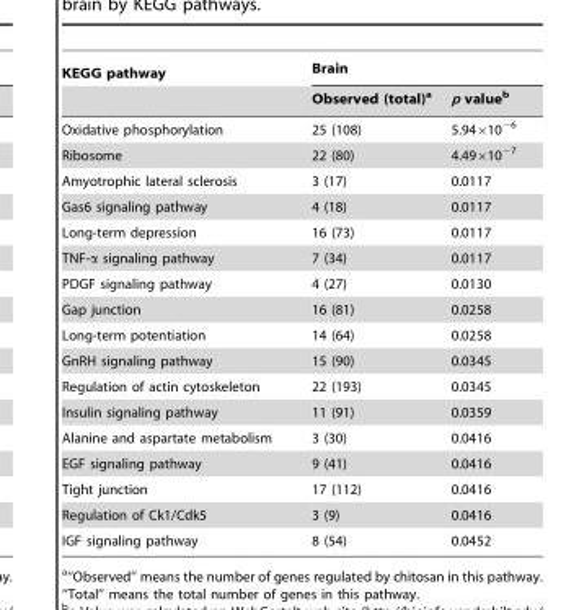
<table><thead><tr><td rowspan="2">KEGG pathway</td><td colspan="2">Brain</td></tr><tr><td>Observed (total)<sup>a</sup></td><td>p value<sup>b</sup></td></tr></thead><tbody><tr><td>Oxidative phosphorylation</td><td>25 (108)</td><td>5.94×10<sup>−6</sup></td></tr><tr><td>Ribosome</td><td>22 (80)</td><td>4.49×10<sup>−7</sup></td></tr><tr><td>Amyotrophic lateral sclerosis</td><td>3 (17)</td><td>0.0117</td></tr><tr><td>Gas6 signaling pathway</td><td>4 (18)</td><td>0.0117</td></tr><tr><td>Long-term depression</td><td>16 (73)</td><td>0.0117</td></tr><tr><td>TNF-α signaling pathway</td><td>7 (34)</td><td>0.0117</td></tr><tr><td>PDGF signaling pathway</td><td>4 (27)</td><td>0.0130</td></tr><tr><td>Gap junction</td><td>16 (81)</td><td>0.0258</td></tr><tr><td>Long-term potentiation</td><td>14 (64)</td><td>0.0258</td></tr><tr><td>GnRH signaling pathway</td><td>15 (90)</td><td>0.0345</td></tr><tr><td>Regulation of actin cytoskeleton</td><td>22 (193)</td><td>0.0345</td></tr><tr><td>Insulin signaling pathway</td><td>11 (91)</td><td>0.0359</td></tr><tr><td>Alanine and aspartate metabolism</td><td>3 (30)</td><td>0.0416</td></tr><tr><td>EGF signaling pathway</td><td>9 (41)</td><td>0.0416</td></tr><tr><td>Tight junction</td><td>17 (112)</td><td>0.0416</td></tr><tr><td>Regulation of Ck1/Cdk5</td><td>3 (9)</td><td>0.0416</td></tr><tr><td>IGF signaling pathway</td><td>8 (54)</td><td>0.0452</td></tr></tbody></table>